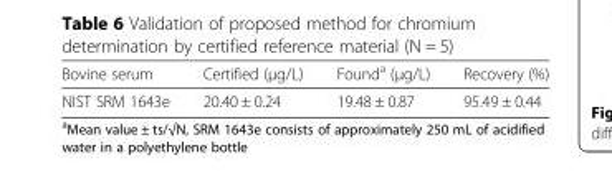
<table><thead><tr><td>Bovine serum</td><td>Certified (μg/L)</td><td>Found<sup>a</sup> (μg/L)</td><td>Recovery (%)</td></tr></thead><tbody><tr><td>NIST SRM 1643e</td><td>20.40 ± 0.24</td><td>19.48 ± 0.87</td><td>95.49 ± 0.44</td></tr></tbody></table>